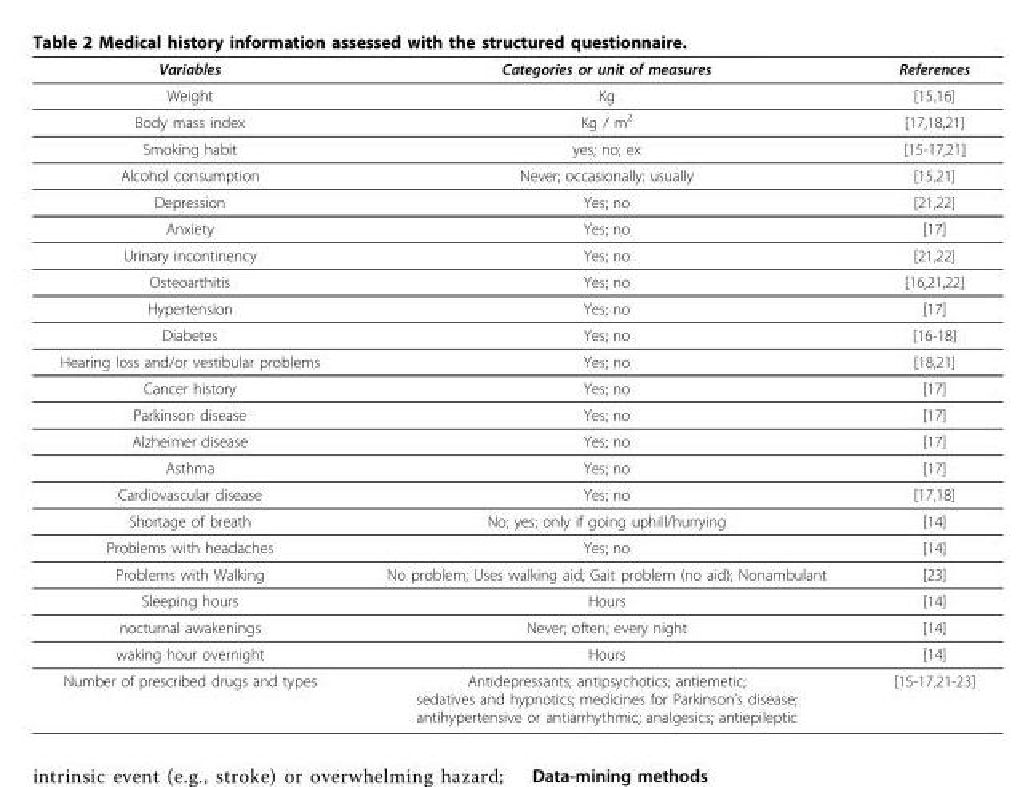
<table><thead><tr><td>Variables</td><td>Categories or unit of measures</td><td>References</td></tr></thead><tbody><tr><td>Weight</td><td>Kg</td><td>[15,16]</td></tr><tr><td>Body mass index</td><td>Kg / m<sup>2</sup></td><td>[17,18,21]</td></tr><tr><td>Smoking habit</td><td>yes; no; ex</td><td>[15-17,21]</td></tr><tr><td>Alcohol consumption</td><td>Never; occasionally; usually</td><td>[15,21]</td></tr><tr><td>Depression</td><td>Yes; no</td><td>[21,22]</td></tr><tr><td>Anxiety</td><td>Yes; no</td><td>[17]</td></tr><tr><td>Urinary incontinency</td><td>Yes; no</td><td>[21,22]</td></tr><tr><td>Osteoarthitis</td><td>Yes; no</td><td>[16,21,22]</td></tr><tr><td>Hypertension</td><td>Yes; no</td><td>[17]</td></tr><tr><td>Diabetes</td><td>Yes; no</td><td>[16-18]</td></tr><tr><td>Hearing loss and/or vestibular problems</td><td>Yes; no</td><td>[18,21]</td></tr><tr><td>Cancer history</td><td>Yes; no</td><td>[17]</td></tr><tr><td>Parkinson disease</td><td>Yes; no</td><td>[17]</td></tr><tr><td>Alzheimer disease</td><td>Yes; no</td><td>[17]</td></tr><tr><td>Asthma</td><td>Yes; no</td><td>[17]</td></tr><tr><td>Cardiovascular disease</td><td>Yes; no</td><td>[17,18]</td></tr><tr><td>Shortage of breath</td><td>No; yes; only if going uphill/hurrying</td><td>[14]</td></tr><tr><td>Problems with headaches</td><td>Yes; no</td><td>[14]</td></tr><tr><td>Problems with Walking</td><td>No problem; Uses walking aid; Gait problem (no aid); Nonambulant</td><td>[23]</td></tr><tr><td>Sleeping hours</td><td>Hours</td><td>[14]</td></tr><tr><td>nocturnal awakenings</td><td>Never; often; every night</td><td>[14]</td></tr><tr><td>waking hour overnight</td><td>Hours</td><td>[14]</td></tr><tr><td>Number of prescribed drugs and types</td><td>Antidepressants; antipsychotics; antiemetic; sedatives and hypnotics; medicines for Parkinson’s disease; antihypertensive or antiarrhythmic; analgesics; antiepileptic</td><td>[15-17,21-23]</td></tr></tbody></table>